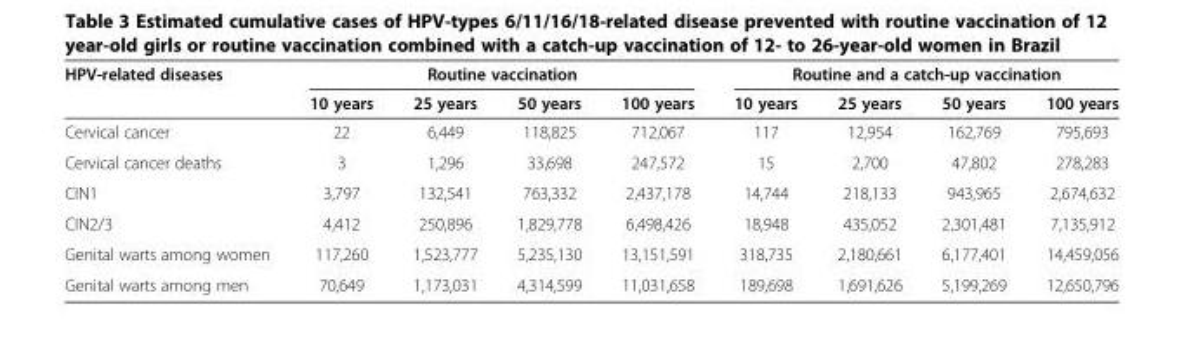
<table><thead><tr><td rowspan="2">HPV-related diseases</td><td colspan="4">Routine vaccination</td><td colspan="4">Routine and a catch-up vaccination</td></tr><tr><td>10 years</td><td>25 years</td><td>50 years</td><td>100 years</td><td>10 years</td><td>25 years</td><td>50 years</td><td>100 years</td></tr></thead><tbody><tr><td>Cervical cancer</td><td>22</td><td>6,449</td><td>118,825</td><td>712,067</td><td>117</td><td>12,954</td><td>162,769</td><td>795,693</td></tr><tr><td>Cervical cancer deaths</td><td>3</td><td>1,296</td><td>33,698</td><td>247,572</td><td>15</td><td>2,700</td><td>47,802</td><td>278,283</td></tr><tr><td>CIN1</td><td>3,797</td><td>132,541</td><td>763,332</td><td>2,437,178</td><td>14,744</td><td>218,133</td><td>943,965</td><td>2,674,632</td></tr><tr><td>CIN2/3</td><td>4,412</td><td>250,896</td><td>1,829,778</td><td>6,498,426</td><td>18,948</td><td>435,052</td><td>2,301,481</td><td>7,135,912</td></tr><tr><td>Genital warts among women</td><td>117,260</td><td>1,523,777</td><td>5,235,130</td><td>13,151,591</td><td>318,735</td><td>2,180,661</td><td>6,177,401</td><td>14,459,056</td></tr><tr><td>Genital warts among men</td><td>70,649</td><td>1,173,031</td><td>4,314,599</td><td>11,031,658</td><td>189,698</td><td>1,691,626</td><td>5,199,269</td><td>12,650,796</td></tr></tbody></table>